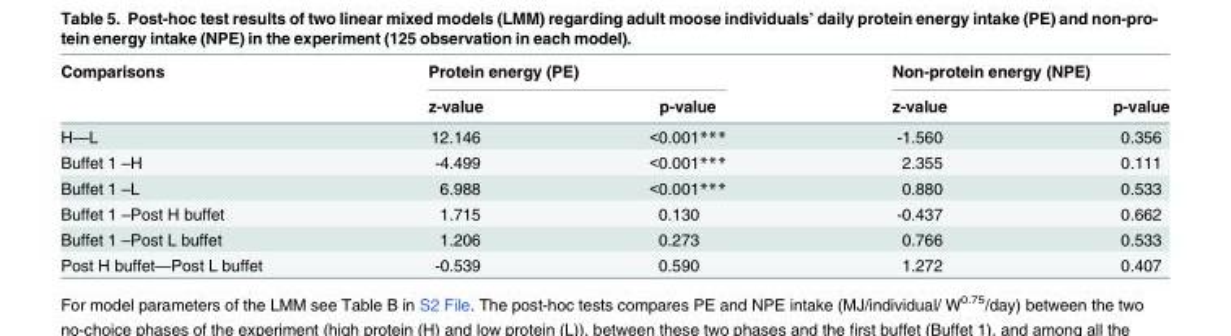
<table><thead><tr><td rowspan="2">Comparisons</td><td colspan="2">Protein energy (PE)</td><td colspan="2">Non-protein energy (NPE)</td></tr><tr><td>z-value</td><td>p-value</td><td>z-value</td><td>p-value</td></tr></thead><tbody><tr><td>H—L</td><td>12.146</td><td>&lt;0.001***</td><td>-1.560</td><td>0.356</td></tr><tr><td>Buffet 1 –H</td><td>-4.499</td><td>&lt;0.001***</td><td>2.355</td><td>0.111</td></tr><tr><td>Buffet 1 –L</td><td>6.988</td><td>&lt;0.001***</td><td>0.880</td><td>0.533</td></tr><tr><td>Buffet 1 –Post H buffet</td><td>1.715</td><td>0.130</td><td>-0.437</td><td>0.662</td></tr><tr><td>Buffet 1 –Post L buffet</td><td>1.206</td><td>0.273</td><td>0.766</td><td>0.533</td></tr><tr><td>Post H buffet—Post L buffet</td><td>-0.539</td><td>0.590</td><td>1.272</td><td>0.407</td></tr></tbody></table>